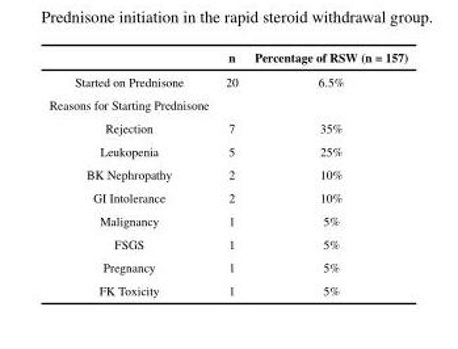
<table><thead><tr><td></td><td>n</td><td>Percentage of RSW (n = 157)</td></tr></thead><tbody><tr><td>Started on Prednisone</td><td>20</td><td>6.5%</td></tr><tr><td colspan="3">Reasons for Starting Prednisone</td></tr><tr><td>Rejection</td><td>7</td><td>35%</td></tr><tr><td>Leukopenia</td><td>5</td><td>25%</td></tr><tr><td>BK Nephropathy</td><td>2</td><td>10%</td></tr><tr><td>GI Intolerance</td><td>2</td><td>10%</td></tr><tr><td>Malignancy</td><td>1</td><td>5%</td></tr><tr><td>FSGS</td><td>1</td><td>5%</td></tr><tr><td>Pregnancy</td><td>1</td><td>5%</td></tr><tr><td>FK Toxicity</td><td>1</td><td>5%</td></tr></tbody></table>